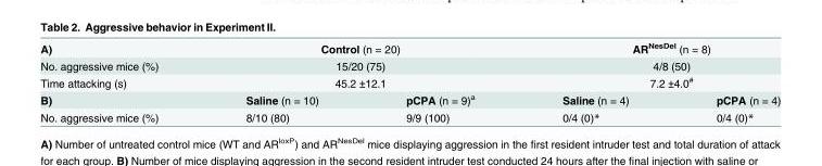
<table><tbody><tr><td>A)</td><td colspan="2">Control (n = 20)</td><td colspan="2">AR<sup>NesDel</sup> (n = 8)</td></tr><tr><td>No. aggressive mice (%)</td><td colspan="2">15/20 (75)</td><td colspan="2">4/8 (50)</td></tr><tr><td>Time attacking (s)</td><td colspan="2">45.2 ±12.1</td><td colspan="2">7.2 ±4.0<sup>#</sup></td></tr><tr><td>B)</td><td>Saline (n = 10)</td><td>pCPA (n = 9)<sup>a</sup></td><td>Saline (n = 4)</td><td>pCPA (n = 4)</td></tr><tr><td>No. aggressive mice (%)</td><td>8/10 (80)</td><td>9/9 (100)</td><td>0/4 (0)*</td><td>0/4 (0)*</td></tr></tbody></table>